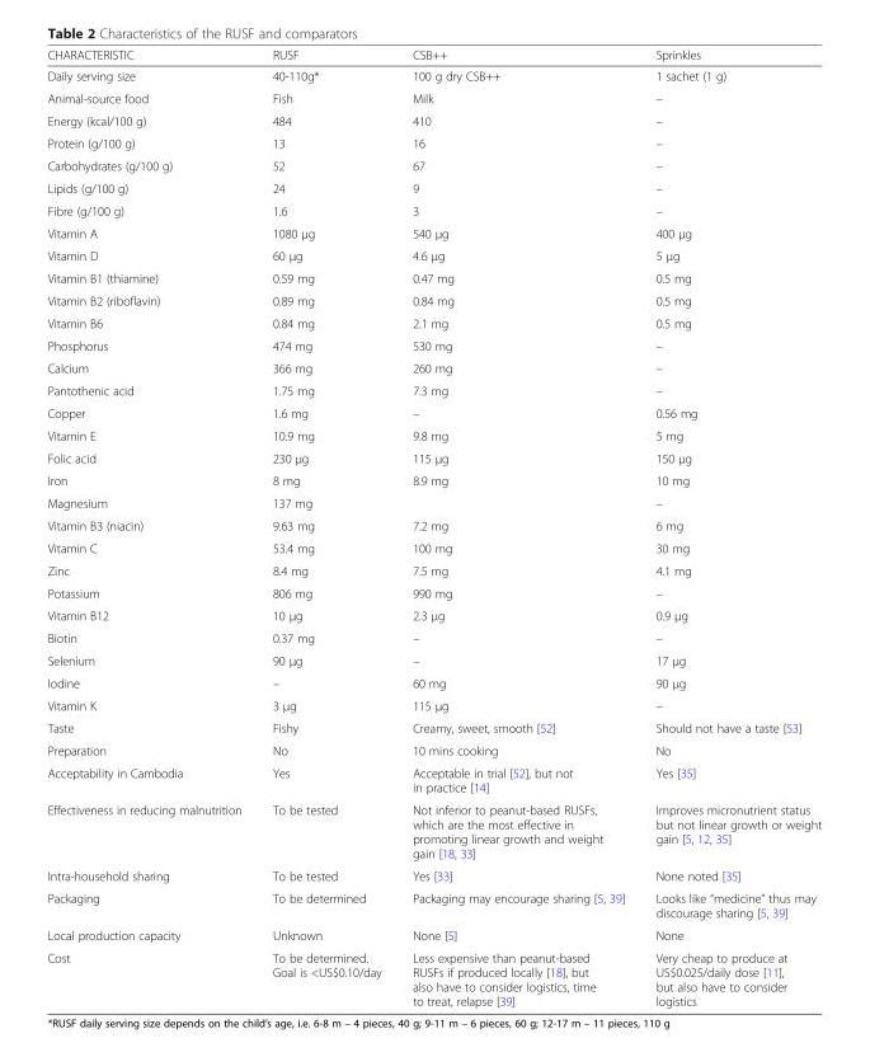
<table><thead><tr><td>CHARACTERISTIC</td><td>RUSF</td><td>CSB++</td><td>Sprinkles</td></tr></thead><tbody><tr><td>Daily serving size</td><td>40-110g*</td><td>100 g dry CSB++</td><td>1 sachet (1 g)</td></tr><tr><td>Animal-source food</td><td>Fish</td><td>Milk</td><td>–</td></tr><tr><td>Energy (kcal/100 g)</td><td>484</td><td>410</td><td>–</td></tr><tr><td>Protein (g/100 g)</td><td>13</td><td>16</td><td>–</td></tr><tr><td>Carbohydrates (g/100 g)</td><td>52</td><td>67</td><td>–</td></tr><tr><td>Lipids (g/100 g)</td><td>24</td><td>9</td><td>–</td></tr><tr><td>Fibre (g/100 g)</td><td>1.6</td><td>3</td><td>–</td></tr><tr><td>Vitamin A</td><td>1080 μg</td><td>540 μg</td><td>400 μg</td></tr><tr><td>Vitamin D</td><td>60 μg</td><td>4.6 μg</td><td>5 μg</td></tr><tr><td>Vitamin B1 (thiamine)</td><td>0.59 mg</td><td>0.47 mg</td><td>0.5 mg</td></tr><tr><td>Vitamin B2 (riboflavin)</td><td>0.89 mg</td><td>0.84 mg</td><td>0.5 mg</td></tr><tr><td>Vitamin B6</td><td>0.84 mg</td><td>2.1 mg</td><td>0.5 mg</td></tr><tr><td>Phosphorus</td><td>474 mg</td><td>530 mg</td><td>–</td></tr><tr><td>Calcium</td><td>366 mg</td><td>260 mg</td><td>–</td></tr><tr><td>Pantothenic acid</td><td>1.75 mg</td><td>7.3 mg</td><td>–</td></tr><tr><td>Copper</td><td>1.6 mg</td><td>–</td><td>0.56 mg</td></tr><tr><td>Vitamin E</td><td>10.9 mg</td><td>9.8 mg</td><td>5 mg</td></tr><tr><td>Folic acid</td><td>230 μg</td><td>115 μg</td><td>150 μg</td></tr><tr><td>Iron</td><td>8 mg</td><td>8.9 mg</td><td>10 mg</td></tr><tr><td>Magnesium</td><td>137 mg</td><td></td><td>–</td></tr><tr><td>Vitamin B3 (niacin)</td><td>9.63 mg</td><td>7.2 mg</td><td>6 mg</td></tr><tr><td>Vitamin C</td><td>53.4 mg</td><td>100 mg</td><td>30 mg</td></tr><tr><td>Zinc</td><td>8.4 mg</td><td>7.5 mg</td><td>4.1 mg</td></tr><tr><td>Potassium</td><td>806 mg</td><td>990 mg</td><td>–</td></tr><tr><td>Vitamin B12</td><td>10 μg</td><td>2.3 μg</td><td>0.9 μg</td></tr><tr><td>Biotin</td><td>0.37 mg</td><td>–</td><td>–</td></tr><tr><td>Selenium</td><td>90 μg</td><td>–</td><td>17 μg</td></tr><tr><td>Iodine</td><td>–</td><td>60 mg</td><td>90 μg</td></tr><tr><td>Vitamin K</td><td>3 μg</td><td>115 μg</td><td>–</td></tr><tr><td>Taste</td><td>Fishy</td><td>Creamy, sweet, smooth [52]</td><td>Should not have a taste [53]</td></tr><tr><td>Preparation</td><td>No</td><td>10 mins cooking</td><td>No</td></tr><tr><td>Acceptability in Cambodia</td><td>Yes</td><td>Acceptable in trial [52], but not in practice [14]</td><td>Yes [35]</td></tr><tr><td>Effectiveness in reducing malnutrition</td><td>To be tested</td><td>Not inferior to peanut-based RUSFs, which are the most effective in promoting linear growth and weight gain [18, 33]</td><td>Improves micronutrient status but not linear growth or weight gain [5, 12, 35]</td></tr><tr><td>Intra-household sharing</td><td>To be tested</td><td>Yes [33]</td><td>None noted [35]</td></tr><tr><td>Packaging</td><td>To be determined</td><td>Packaging may encourage sharing [5, 39]</td><td>Looks like “medicine” thus may discourage sharing [5, 39]</td></tr><tr><td>Local production capacity</td><td>Unknown</td><td>None [5]</td><td>None</td></tr><tr><td>Cost</td><td>To be determined. Goal is &lt;US$0.10/day</td><td>Less expensive than peanut-based RUSFs if produced locally [18], but also have to consider logistics, time to treat, relapse [39]</td><td>Very cheap to produce at US$0.025/daily dose [11], but also have to consider logistics</td></tr></tbody></table>